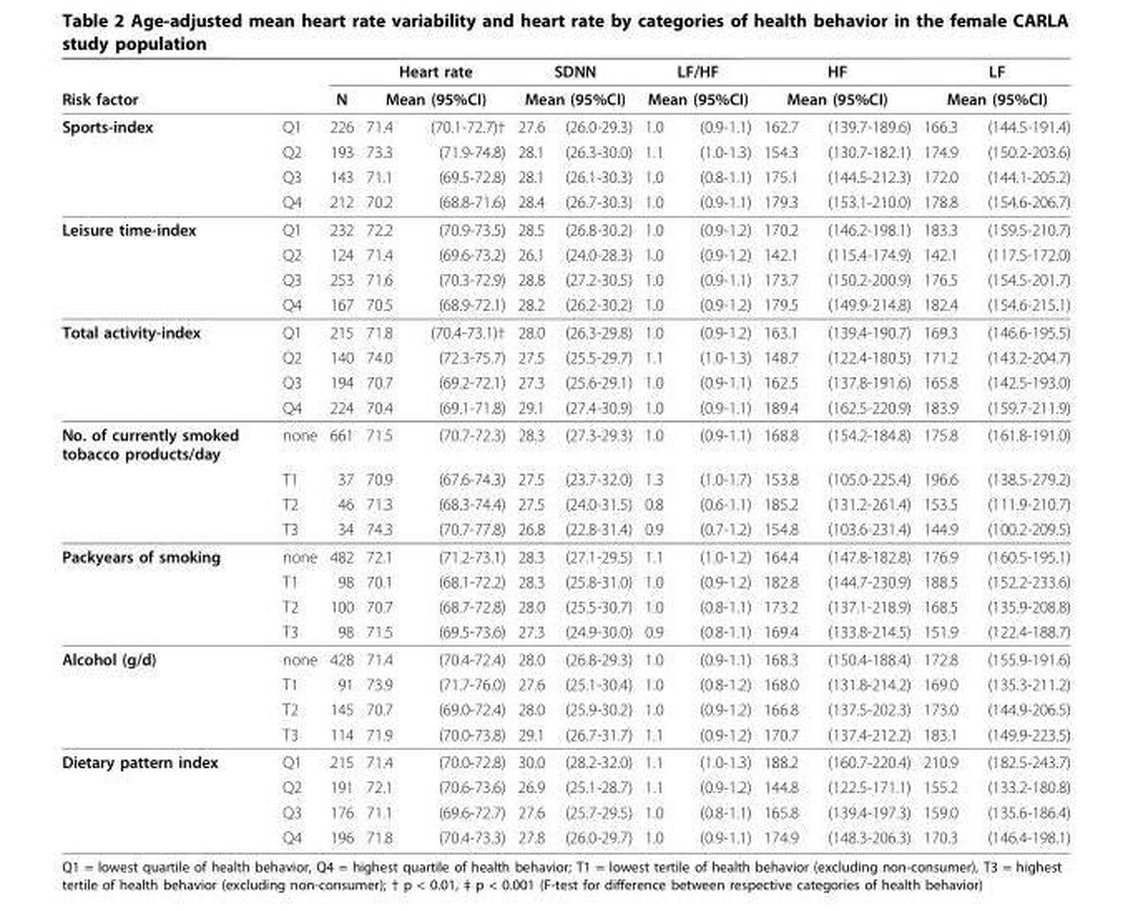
<table><thead><tr><td rowspan="3">Risk factor Sports-index</td><td rowspan="3">Q1</td><td rowspan="3">N 226</td><td rowspan="2" colspan="2">Heart rate Mean (95%CI)</td><td rowspan="2" colspan="2">SDNN Mean (95%CI)</td><td rowspan="2" colspan="2">LF/HF Mean (95%CI)</td><td rowspan="2" colspan="2">HF Mean (95%CI)</td><td rowspan="2" colspan="2">LF Mean (95%CI)</td></tr><tr></tr><tr><td>71.4</td><td>(70.1-72.7)†</td><td>27.6</td><td>(26.0-29.3)</td><td>1.0</td><td>(0.9-1.1)</td><td>162.7</td><td>(139.7-189.6)</td><td>166.3</td><td>(144.5-191.4)</td></tr></thead><tbody><tr><td></td><td>Q2</td><td>193</td><td>73.3</td><td>(71.9-74.8)</td><td>28.1</td><td>(26.3-30.0)</td><td>1.1</td><td>(1.0-1.3)</td><td>154.3</td><td>(130.7-182.1)</td><td>174.9</td><td>(150.2-203.6)</td></tr><tr><td></td><td>Q3</td><td>143</td><td>71.1</td><td>(69.5-72.8)</td><td>28.1</td><td>(26.1-30.3)</td><td>1.0</td><td>(0.8-1.1)</td><td>175.1</td><td>(144.5-212.3)</td><td>172.0</td><td>(144.1-205.2)</td></tr><tr><td></td><td>Q4</td><td>212</td><td>70.2</td><td>(68.8-71.6)</td><td>28.4</td><td>(26.7-30.3)</td><td>1.0</td><td>(0.9-1.1)</td><td>179.3</td><td>(153.1-210.0)</td><td>178.8</td><td>(154.6-206.7)</td></tr><tr><td rowspan="4">Leisure time-index</td><td>Q1</td><td>232</td><td>72.2</td><td>(70.9-73.5)</td><td>28.5</td><td>(26.8-30.2)</td><td>1.0</td><td>(0.9-1.2)</td><td>170.2</td><td>(146.2-198.1)</td><td>183.3</td><td>(159.5-210.7)</td></tr><tr><td>Q2</td><td>124</td><td>71.4</td><td>(69.6-73.2)</td><td>26.1</td><td>(24.0-28.3)</td><td>1.0</td><td>(0.9-1.2)</td><td>142.1</td><td>(115.4-174.9)</td><td>142.1</td><td>(117.5-172.0)</td></tr><tr><td>Q3</td><td>253</td><td>71.6</td><td>(70.3-72.9)</td><td>28.8</td><td>(27.2-30.5)</td><td>1.0</td><td>(0.9-1.1)</td><td>173.7</td><td>(150.2-200.9)</td><td>176.5</td><td>(154.5-201.7)</td></tr><tr><td>Q4</td><td>167</td><td>70.5</td><td>(68.9-72.1)</td><td>28.2</td><td>(26.2-30.2)</td><td>1.0</td><td>(0.9-1.2)</td><td>179.5</td><td>(149.9-214.8)</td><td>182.4</td><td>(154.6-215.1)</td></tr><tr><td rowspan="4">Total activity-index</td><td>Q1</td><td>215</td><td>71.8</td><td>(70.4-73.1)†</td><td>28.0</td><td>(26.3-29.8)</td><td>1.0</td><td>(0.9-1.2)</td><td>163.1</td><td>(139.4-190.7)</td><td>169.3</td><td>(146.6-195.5)</td></tr><tr><td>Q2</td><td>140</td><td>74.0</td><td>(72.3-75.7)</td><td>27.5</td><td>(25.5-29.7)</td><td>1.1</td><td>(1.0-1.3)</td><td>148.7</td><td>(122.4-180.5)</td><td>171.2</td><td>(143.2-204.7)</td></tr><tr><td>Q3</td><td>194</td><td>70.7</td><td>(69.2-72.1)</td><td>27.3</td><td>(25.6-29.1)</td><td>1.0</td><td>(0.9-1.1)</td><td>162.5</td><td>(137.8-191.6)</td><td>165.8</td><td>(142.5-193.0)</td></tr><tr><td>Q4</td><td>224</td><td>70.4</td><td>(69.1-71.8)</td><td>29.1</td><td>(27.4-30.9)</td><td>1.0</td><td>(0.9-1.1)</td><td>189.4</td><td>(162.5-220.9)</td><td>183.9</td><td>(159.7-211.9)</td></tr><tr><td rowspan="4">No. of currently smoked tobacco products/day</td><td>none</td><td>661</td><td>71.5</td><td>(70.7-72.3)</td><td>28.3</td><td>(27.3-29.3)</td><td>1.0</td><td>(0.9-1.1)</td><td>168.8</td><td>(154.2-184.8)</td><td>175.8</td><td>(161.8-191.0)</td></tr><tr><td>T1</td><td>37</td><td>70.9</td><td>(67.6-74.3)</td><td>27.5</td><td>(23.7-32.0)</td><td>1.3</td><td>(1.0-1.7)</td><td>153.8</td><td>(105.0-225.4)</td><td>196.6</td><td>(138.5-279.2)</td></tr><tr><td>T2</td><td>46</td><td>71.3</td><td>(68.3-74.4)</td><td>27.5</td><td>(24.0-31.5)</td><td>0.8</td><td>(0.6-1.1)</td><td>185.2</td><td>(131.2-261.4)</td><td>153.5</td><td>(111.9-210.7)</td></tr><tr><td>T3</td><td>34</td><td>74.3</td><td>(70.7-77.8)</td><td>26.8</td><td>(22.8-31.4)</td><td>0.9</td><td>(0.7-1.2)</td><td>154.8</td><td>(103.6-231.4)</td><td>144.9</td><td>(100.2-209.5)</td></tr><tr><td rowspan="4">Packyears of smoking</td><td>none</td><td>482</td><td>72.1</td><td>(71.2-73.1)</td><td>28.3</td><td>(27.1-29.5)</td><td>1.1</td><td>(1.0-1.2)</td><td>164.4</td><td>(147.8-182.8)</td><td>176.9</td><td>(160.5-195.1)</td></tr><tr><td>T1</td><td>98</td><td>70.1</td><td>(68.1-72.2)</td><td>28.3</td><td>(25.8-31.0)</td><td>1.0</td><td>(0.9-1.2)</td><td>182.8</td><td>(144.7-230.9)</td><td>188.5</td><td>(152.2-233.6)</td></tr><tr><td>T2</td><td>100</td><td>70.7</td><td>(68.7-72.8)</td><td>28.0</td><td>(25.5-30.7)</td><td>1.0</td><td>(0.8-1.1)</td><td>173.2</td><td>(137.1-218.9)</td><td>168.5</td><td>(135.9-208.8)</td></tr><tr><td>T3</td><td>98</td><td>71.5</td><td>(69.5-73.6)</td><td>27.3</td><td>(24.9-30.0)</td><td>0.9</td><td>(0.8-1.1)</td><td>169.4</td><td>(133.8-214.5)</td><td>151.9</td><td>(122.4-188.7)</td></tr><tr><td rowspan="4">Alcohol (g/d)</td><td>none</td><td>428</td><td>71.4</td><td>(70.4-72.4)</td><td>28.0</td><td>(26.8-29.3)</td><td>1.0</td><td>(0.9-1.1)</td><td>168.3</td><td>(150.4-188.4)</td><td>172.8</td><td>(155.9-191.6)</td></tr><tr><td>T1</td><td>91</td><td>73.9</td><td>(71.7-76.0)</td><td>27.6</td><td>(25.1-30.4)</td><td>1.0</td><td>(0.8-1.2)</td><td>168.0</td><td>(131.8-214.2)</td><td>169.0</td><td>(135.3-211.2)</td></tr><tr><td>T2</td><td>145</td><td>70.7</td><td>(69.0-72.4)</td><td>28.0</td><td>(25.9-30.2)</td><td>1.0</td><td>(0.9-1.2)</td><td>166.8</td><td>(137.5-202.3)</td><td>173.0</td><td>(144.9-206.5)</td></tr><tr><td>T3</td><td>114</td><td>71.9</td><td>(70.0-73.8)</td><td>29.1</td><td>(26.7-31.7)</td><td>1.1</td><td>(0.9-1.2)</td><td>170.7</td><td>(137.4-212.2)</td><td>183.1</td><td>(149.9-223.5)</td></tr><tr><td rowspan="4">Dietary pattern index</td><td>Q1</td><td>215</td><td>71.4</td><td>(70.0-72.8)</td><td>30.0</td><td>(28.2-32.0)</td><td>1.1</td><td>(1.0-1.3)</td><td>188.2</td><td>(160.7-220.4)</td><td>210.9</td><td>(182.5-243.7)</td></tr><tr><td>Q2</td><td>191</td><td>72.1</td><td>(70.6-73.6)</td><td>26.9</td><td>(25.1-28.7)</td><td>1.1</td><td>(0.9-1.2)</td><td>144.8</td><td>(122.5-171.1)</td><td>155.2</td><td>(133.2-180.8)</td></tr><tr><td>Q3</td><td>176</td><td>71.1</td><td>(69.6-72.7)</td><td>27.6</td><td>(25.7-29.5)</td><td>1.0</td><td>(0.8-1.1)</td><td>165.8</td><td>(139.4-197.3)</td><td>159.0</td><td>(135.6-186.4)</td></tr><tr><td>Q4</td><td>196</td><td>71.8</td><td>(70.4-73.3)</td><td>27.8</td><td>(26.0-29.7)</td><td>1.0</td><td>(0.9-1.1)</td><td>174.9</td><td>(148.3-206.3)</td><td>170.3</td><td>(146.4-198.1)</td></tr></tbody></table>